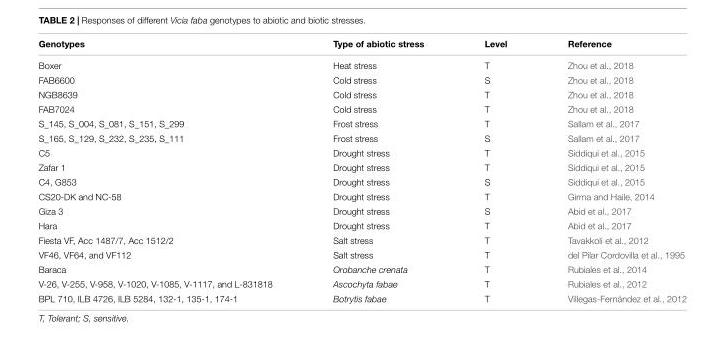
<table><thead><tr><td>Genotypes</td><td>Type of abiotic stress</td><td>Level</td><td>Reference</td></tr></thead><tbody><tr><td>Boxer</td><td>Heat stress</td><td>T</td><td>Zhou et al., 2018</td></tr><tr><td>FAB6600</td><td>Cold stress</td><td>S</td><td>Zhou et al., 2018</td></tr><tr><td>NGB8639</td><td>Cold stress</td><td>T</td><td>Zhou et al., 2018</td></tr><tr><td>FAB7024</td><td>Cold stress</td><td>T</td><td>Zhou et al., 2018</td></tr><tr><td>S_145, S_004, S_081, S_151, S_299</td><td>Frost stress</td><td>T</td><td>Sallam et al., 2017</td></tr><tr><td>S_165, S_129, S_232, S_235, S_111</td><td>Frost stress</td><td>S</td><td>Sallam et al., 2017</td></tr><tr><td>C5</td><td>Drought stress</td><td>T</td><td>Siddiqui et al., 2015</td></tr><tr><td>Zafar 1</td><td>Drought stress</td><td>T</td><td>Siddiqui et al., 2015</td></tr><tr><td>C4, G853</td><td>Drought stress</td><td>S</td><td>Siddiqui et al., 2015</td></tr><tr><td>CS20-DK and NC-58</td><td>Drought stress</td><td>T</td><td>Girma and Haile, 2014</td></tr><tr><td>Giza 3</td><td>Drought stress</td><td>S</td><td>Abid et al., 2017</td></tr><tr><td>Hara</td><td>Drought stress</td><td>T</td><td>Abid et al., 2017</td></tr><tr><td>Fiesta VF, Acc 1487/7, Acc 1512/2</td><td>Salt stress</td><td>T</td><td>Tavakkoli et al., 2012</td></tr><tr><td>VF46, VF64, and VF112</td><td>Salt stress</td><td>T</td><td>del Pilar Cordovilla et al., 1995</td></tr><tr><td>Baraca</td><td>Orobanche crenata</td><td>T</td><td>Rubiales et al., 2014</td></tr><tr><td>V-26, V-255, V-958, V-1020, V-1085, V-1117, and L-831818</td><td>Ascochyta fabae</td><td>T</td><td>Rubiales et al., 2012</td></tr><tr><td>BPL 710, ILB 4726, ILB 5284, 132-1, 135-1, 174-1</td><td>Botrytis fabae</td><td>T</td><td>Villegas-Fernández et al., 2012</td></tr></tbody></table>